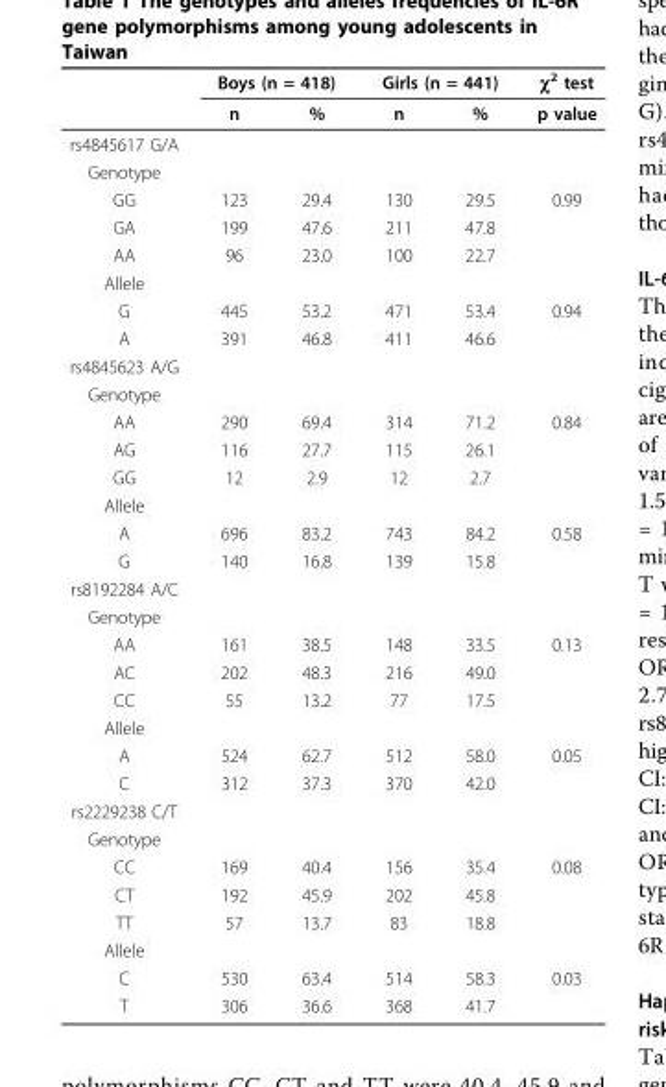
<table><thead><tr><td rowspan="2"></td><td colspan="2">Boys (n = 418)</td><td colspan="2">Girls (n = 441)</td><td rowspan="2">χ<sup>2</sup> test p value</td></tr><tr><td>n</td><td>%</td><td>n</td><td>%</td></tr></thead><tbody><tr><td colspan="6">rs4845617 G/A</td></tr><tr><td colspan="6">Genotype</td></tr><tr><td>GG</td><td>123</td><td>29.4</td><td>130</td><td>29.5</td><td>0.99</td></tr><tr><td>GA</td><td>199</td><td>47.6</td><td>211</td><td>47.8</td><td></td></tr><tr><td>AA</td><td>96</td><td>23.0</td><td>100</td><td>22.7</td><td></td></tr><tr><td colspan="6">Allele</td></tr><tr><td>G</td><td>445</td><td>53.2</td><td>471</td><td>53.4</td><td>0.94</td></tr><tr><td>A</td><td>391</td><td>46.8</td><td>411</td><td>46.6</td><td></td></tr><tr><td colspan="6">rs4845623 A/G</td></tr><tr><td colspan="6">Genotype</td></tr><tr><td>AA</td><td>290</td><td>69.4</td><td>314</td><td>71.2</td><td>0.84</td></tr><tr><td>AG</td><td>116</td><td>27.7</td><td>115</td><td>26.1</td><td></td></tr><tr><td>GG</td><td>12</td><td>2.9</td><td>12</td><td>2.7</td><td></td></tr><tr><td colspan="6">Allele</td></tr><tr><td>A</td><td>696</td><td>83.2</td><td>743</td><td>84.2</td><td>0.58</td></tr><tr><td>G</td><td>140</td><td>16.8</td><td>139</td><td>15.8</td><td></td></tr><tr><td colspan="6">rs8192284 A/C</td></tr><tr><td colspan="6">Genotype</td></tr><tr><td>AA</td><td>161</td><td>38.5</td><td>148</td><td>33.5</td><td>0.13</td></tr><tr><td>AC</td><td>202</td><td>48.3</td><td>216</td><td>49.0</td><td></td></tr><tr><td>CC</td><td>55</td><td>13.2</td><td>77</td><td>17.5</td><td></td></tr><tr><td colspan="6">Allele</td></tr><tr><td>A</td><td>524</td><td>62.7</td><td>512</td><td>58.0</td><td>0.05</td></tr><tr><td>C</td><td>312</td><td>37.3</td><td>370</td><td>42.0</td><td></td></tr><tr><td colspan="6">rs2229238 C/T</td></tr><tr><td colspan="6">Genotype</td></tr><tr><td>CC</td><td>169</td><td>40.4</td><td>156</td><td>35.4</td><td>0.08</td></tr><tr><td>CT</td><td>192</td><td>45.9</td><td>202</td><td>45.8</td><td></td></tr><tr><td>TT</td><td>57</td><td>13.7</td><td>83</td><td>18.8</td><td></td></tr><tr><td colspan="6">Allele</td></tr><tr><td>C</td><td>530</td><td>63.4</td><td>514</td><td>58.3</td><td>0.03</td></tr><tr><td>T</td><td>306</td><td>36.6</td><td>368</td><td>41.7</td><td></td></tr></tbody></table>